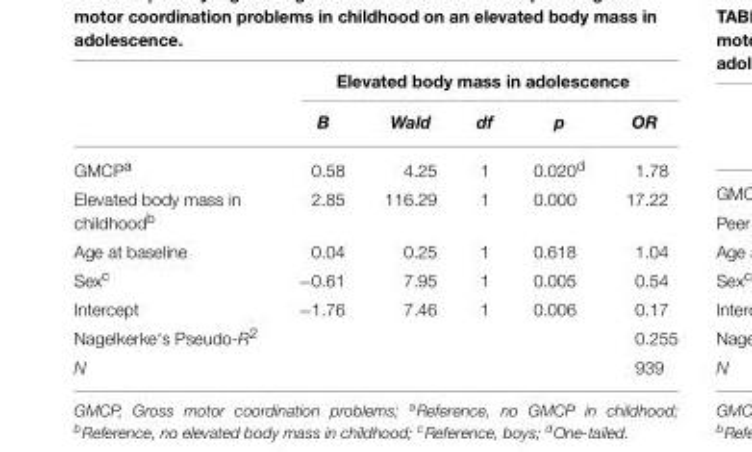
<table><thead><tr><td rowspan="2"></td><td colspan="5">Elevated body mass in adolescence</td></tr><tr><td>B</td><td>Wald</td><td>df</td><td>p</td><td>OR</td></tr></thead><tbody><tr><td>GMCP<sup>a</sup></td><td>0.58</td><td>4.25</td><td>1</td><td>0.020<sup>d</sup></td><td>1.78</td></tr><tr><td>Elevated body mass in childhood<sup>b</sup></td><td>2.85</td><td>116.29</td><td>1</td><td>0.000</td><td>17.22</td></tr><tr><td>Age at baseline</td><td>0.04</td><td>0.25</td><td>1</td><td>0.618</td><td>1.04</td></tr><tr><td>Sex<sup>c</sup></td><td>−0.61</td><td>7.95</td><td>1</td><td>0.005</td><td>0.54</td></tr><tr><td>Intercept</td><td>−1.76</td><td>7.46</td><td>1</td><td>0.006</td><td>0.17</td></tr><tr><td>Nagelkerke‘s Pseudo-R<sup>2</sup></td><td></td><td></td><td></td><td></td><td>0.255</td></tr><tr><td>N</td><td></td><td></td><td></td><td></td><td>939</td></tr></tbody></table>